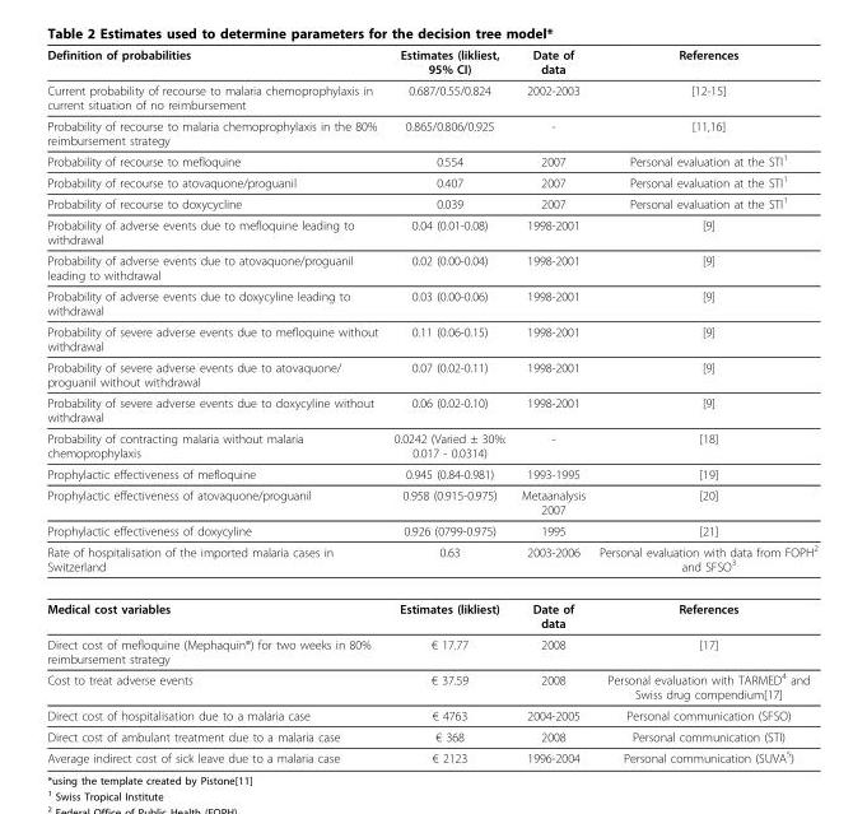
<table><thead><tr><td>Definition of probabilities</td><td>Estimates (likliest, 95% CI)</td><td>Date of data</td><td>References</td></tr></thead><tbody><tr><td>Current probability of recourse to malaria chemoprophylaxis in current situation of no reimbursement</td><td>0.687/0.55/0.824</td><td>2002-2003</td><td>[12-15]</td></tr><tr><td>Probability of recourse to malaria chemoprophylaxis in the 80% reimbursement strategy</td><td>0.865/0.806/0.925</td><td>-</td><td>[11,16]</td></tr><tr><td>Probability of recourse to mefloquine</td><td>0.554</td><td>2007</td><td>Personal evaluation at the STI<sup>1</sup></td></tr><tr><td>Probability of recourse to atovaquone/proguanil</td><td>0.407</td><td>2007</td><td>Personal evaluation at the STI<sup>1</sup></td></tr><tr><td>Probability of recourse to doxycycline</td><td>0.039</td><td>2007</td><td>Personal evaluation at the STI<sup>1</sup></td></tr><tr><td>Probability of adverse events due to mefloquine leading to withdrawal</td><td>0.04 (0.01-0.08)</td><td>1998-2001</td><td>[9]</td></tr><tr><td>Probability of adverse events due to atovaquone/proguanil leading to withdrawal</td><td>0.02 (0.00-0.04)</td><td>1998-2001</td><td>[9]</td></tr><tr><td>Probability of adverse events due to doxycyline leading to withdrawal</td><td>0.03 (0.00-0.06)</td><td>1998-2001</td><td>[9]</td></tr><tr><td>Probability of severe adverse events due to mefloquine without withdrawal</td><td>0.11 (0.06-0.15)</td><td>1998-2001</td><td>[9]</td></tr><tr><td>Probability of severe adverse events due to atovaquone/ proguanil without withdrawal</td><td>0.07 (0.02-0.11)</td><td>1998-2001</td><td>[9]</td></tr><tr><td>Probability of severe adverse events due to doxycyline without withdrawal</td><td>0.06 (0.02-0.10)</td><td>1998-2001</td><td>[9]</td></tr><tr><td>Probability of contracting malaria without malaria chemoprophylaxis</td><td>0.0242 (Varied ± 30%: 0.017 - 0.0314)</td><td>-</td><td>[18]</td></tr><tr><td>Prophylactic effectiveness of mefloquine</td><td>0.945 (0.84-0.981)</td><td>1993-1995</td><td>[19]</td></tr><tr><td>Prophylactic effectiveness of atovaquone/proguanil</td><td>0.958 (0.915-0.975)</td><td>Metaanalysis 2007</td><td>[20]</td></tr><tr><td>Prophylactic effectiveness of doxycyline</td><td>0.926 (0799-0.975)</td><td>1995</td><td>[21]</td></tr><tr><td>Rate of hospitalisation of the imported malaria cases in Switzerland</td><td>0.63</td><td>2003-2006</td><td>Personal evaluation with data from FOPH<sup>2</sup> and SFSO<sup>3</sup></td></tr><tr><td>Medical cost variables</td><td>Estimates (likliest)</td><td>Date of data</td><td>References</td></tr><tr><td>Direct cost of mefloquine (Mephaquin®) for two weeks in 80% reimbursement strategy</td><td>€ 17.77</td><td>2008</td><td>[17]</td></tr><tr><td>Cost to treat adverse events</td><td>€ 37.59</td><td>2008</td><td>Personal evaluation with TARMED4 and Swiss drug compendium[17]</td></tr><tr><td>Direct cost of hospitalisation due to a malaria case</td><td>€ 4763</td><td>2004-2005</td><td>Personal communication (SFSO)</td></tr><tr><td>Direct cost of ambulant treatment due to a malaria case</td><td>€ 368</td><td>2008</td><td>Personal communication (STI)</td></tr><tr><td>Average indirect cost of sick leave due to a malaria case</td><td>€ 2123</td><td>1996-2004</td><td>Personal communication (SUVA5)</td></tr></tbody></table>